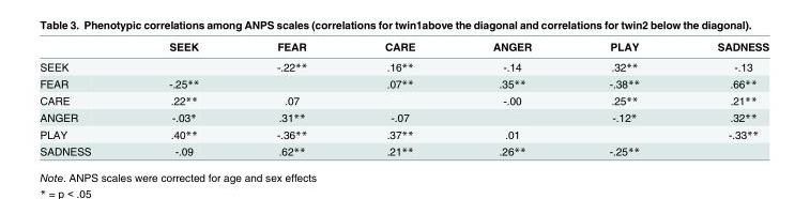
<table><thead><tr><td></td><td>SEEK</td><td>FEAR</td><td>CARE</td><td>ANGER</td><td>PLAY</td><td>SADNESS</td></tr></thead><tbody><tr><td>SEEK</td><td></td><td>-.22**</td><td>.16**</td><td>-.14</td><td>.32**</td><td>-.13</td></tr><tr><td>FEAR</td><td>-.25**</td><td></td><td>.07**</td><td>.35**</td><td>-.38**</td><td>.66**</td></tr><tr><td>CARE</td><td>.22**</td><td>.07</td><td></td><td>-.00</td><td>.25**</td><td>.21**</td></tr><tr><td>ANGER</td><td>-.03*</td><td>.31**</td><td>-.07</td><td></td><td>-.12*</td><td>.32**</td></tr><tr><td>PLAY</td><td>.40**</td><td>-.36**</td><td>.37**</td><td>.01</td><td></td><td>-.33**</td></tr><tr><td>SADNESS</td><td>-.09</td><td>.62**</td><td>.21**</td><td>.26**</td><td>-.25**</td><td></td></tr></tbody></table>